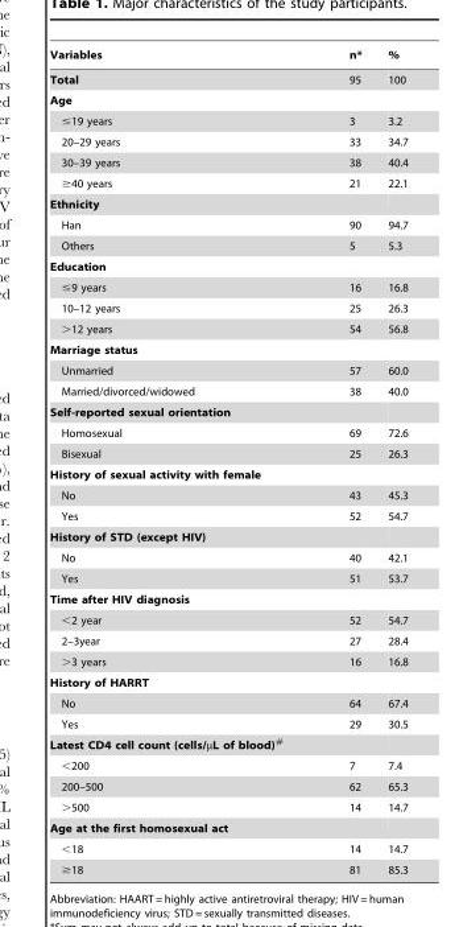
<table><thead><tr><td>Variables</td><td>n*</td><td>%</td></tr></thead><tbody><tr><td>Total</td><td>95</td><td>100</td></tr><tr><td colspan="3">Age</td></tr><tr><td>≤19 years</td><td>3</td><td>3.2</td></tr><tr><td>20–29 years</td><td>33</td><td>34.7</td></tr><tr><td>30–39 years</td><td>38</td><td>40.4</td></tr><tr><td>≥40 years</td><td>21</td><td>22.1</td></tr><tr><td colspan="3">Ethnicity</td></tr><tr><td>Han</td><td>90</td><td>94.7</td></tr><tr><td>Others</td><td>5</td><td>5.3</td></tr><tr><td colspan="3">Education</td></tr><tr><td>≤9 years</td><td>16</td><td>16.8</td></tr><tr><td>10–12 years</td><td>25</td><td>26.3</td></tr><tr><td>&gt;12 years</td><td>54</td><td>56.8</td></tr><tr><td colspan="3">Marriage status</td></tr><tr><td>Unmarried</td><td>57</td><td>60.0</td></tr><tr><td>Married/divorced/widowed</td><td>38</td><td>40.0</td></tr><tr><td colspan="3">Self-reported sexual orientation</td></tr><tr><td>Homosexual</td><td>69</td><td>72.6</td></tr><tr><td>Bisexual</td><td>25</td><td>26.3</td></tr><tr><td colspan="3">History of sexual activity with female</td></tr><tr><td>No</td><td>43</td><td>45.3</td></tr><tr><td>Yes</td><td>52</td><td>54.7</td></tr><tr><td colspan="3">History of STD (except HIV)</td></tr><tr><td>No</td><td>40</td><td>42.1</td></tr><tr><td>Yes</td><td>51</td><td>53.7</td></tr><tr><td colspan="3">Time after HIV diagnosis</td></tr><tr><td>&lt;2 year</td><td>52</td><td>54.7</td></tr><tr><td>2–3year</td><td>27</td><td>28.4</td></tr><tr><td>&gt;3 years</td><td>16</td><td>16.8</td></tr><tr><td colspan="3">History of HARRT</td></tr><tr><td>No</td><td>64</td><td>67.4</td></tr><tr><td>Yes</td><td>29</td><td>30.5</td></tr><tr><td colspan="3">Latest CD4 cell count (cells/µL of blood)#</td></tr><tr><td>&lt;200</td><td>7</td><td>7.4</td></tr><tr><td>200–500</td><td>62</td><td>65.3</td></tr><tr><td>&gt;500</td><td>14</td><td>14.7</td></tr><tr><td colspan="3">Age at the first homosexual act</td></tr><tr><td>&lt;18</td><td>14</td><td>14.7</td></tr><tr><td>≥18</td><td>81</td><td>85.3</td></tr></tbody></table>